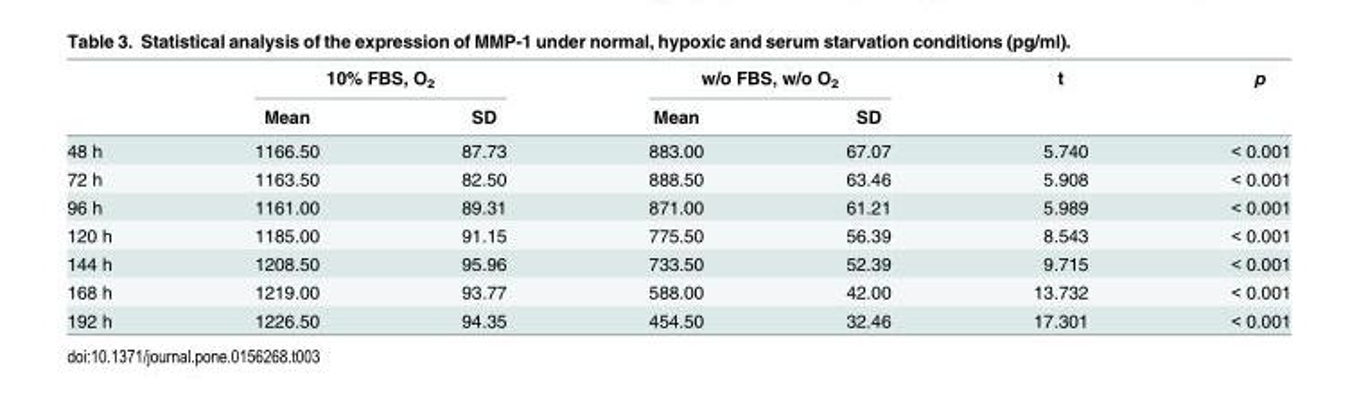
<table><thead><tr><td rowspan="2"></td><td colspan="2">10% FBS, O<sub>2</sub></td><td colspan="2">w/o FBS, w/o O<sub>2</sub></td><td rowspan="2">t</td><td rowspan="2">p</td></tr><tr><td>Mean</td><td>SD</td><td>Mean</td><td>SD</td></tr></thead><tbody><tr><td>48 h</td><td>1166.50</td><td>87.73</td><td>883.00</td><td>67.07</td><td>5.740</td><td>&lt; 0.001</td></tr><tr><td>72 h</td><td>1163.50</td><td>82.50</td><td>888.50</td><td>63.46</td><td>5.908</td><td>&lt; 0.001</td></tr><tr><td>96 h</td><td>1161.00</td><td>89.31</td><td>871.00</td><td>61.21</td><td>5.989</td><td>&lt; 0.001</td></tr><tr><td>120 h</td><td>1185.00</td><td>91.15</td><td>775.50</td><td>56.39</td><td>8.543</td><td>&lt; 0.001</td></tr><tr><td>144 h</td><td>1208.50</td><td>95.96</td><td>733.50</td><td>52.39</td><td>9.715</td><td>&lt; 0.001</td></tr><tr><td>168 h</td><td>1219.00</td><td>93.77</td><td>588.00</td><td>42.00</td><td>13.732</td><td>&lt; 0.001</td></tr><tr><td>192 h</td><td>1226.50</td><td>94.35</td><td>454.50</td><td>32.46</td><td>17.301</td><td>&lt; 0.001</td></tr></tbody></table>